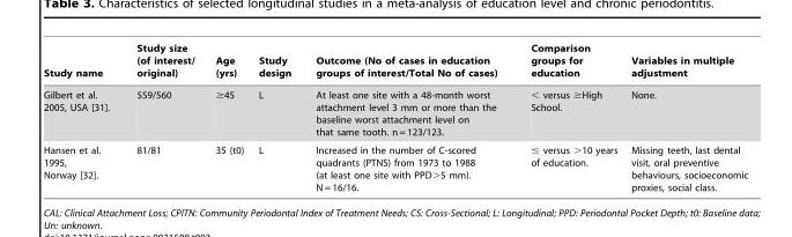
<table><thead><tr><td>Study name</td><td>Study size (of interest/ original)</td><td>Age (yrs)</td><td>Study design</td><td>Outcome (No of cases in education groups of interest/Total No of cases)</td><td>Comparison groups for education</td><td>Variables in multiple adjustment</td></tr></thead><tbody><tr><td>Gilbert et al. 2005, USA [31].</td><td>559/560</td><td>≥45</td><td>L</td><td>At least one site with a 48-month worst attachment level 3 mm or more than the baseline worst attachment level on that same tooth. n = 123/123.</td><td>&lt; versus ≥High School.</td><td>None.</td></tr><tr><td>Hansen et al. 1995, Norway [32].</td><td>81/81</td><td>35 (t0)</td><td>L</td><td>Increased in the number of C-scored quadrants (PTNS) from 1973 to 1988 (at least one site with PPD&gt;5 mm). N = 16/16.</td><td>≤ versus &gt;10 years of education.</td><td>Missing teeth, last dental visit, oral preventive behaviours, socioeconomic proxies, social class.</td></tr></tbody></table>